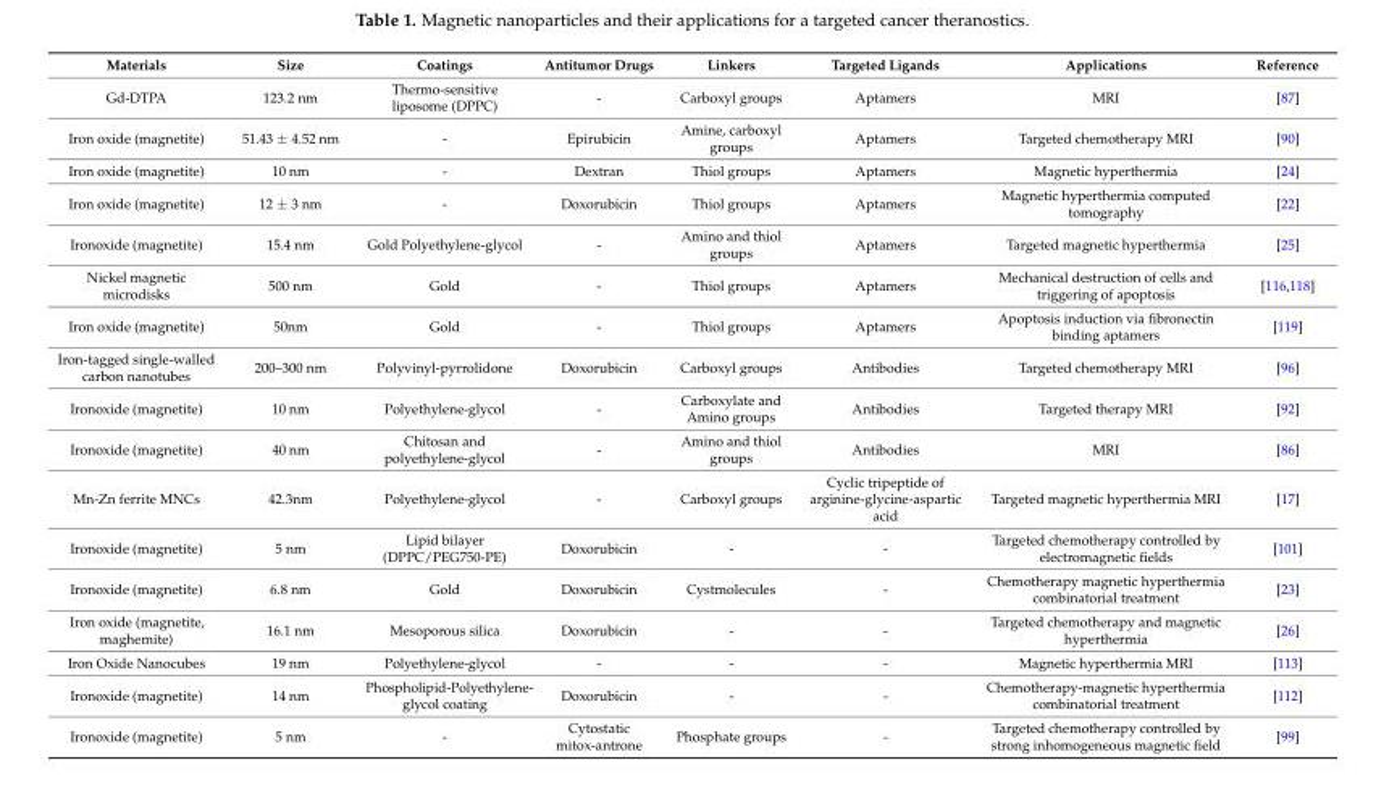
<table><thead><tr><td>Materials</td><td>Size</td><td>Coatings</td><td>Antitumor Drugs</td><td>Linkers</td><td>Targeted Ligands</td><td>Applications</td><td>Reference</td></tr></thead><tbody><tr><td>Gd-DTPA</td><td>123.2 nm</td><td>Thermo-sensitive liposome (DPPC)</td><td>-</td><td>Carboxyl groups</td><td>Aptamers</td><td>MRI</td><td>[87]</td></tr><tr><td>Iron oxide (magnetite)</td><td>51.43 ± 4.52 nm</td><td>-</td><td>Epirubicin</td><td>Amine, carboxyl groups</td><td>Aptamers</td><td>Targeted chemotherapy MRI</td><td>[90]</td></tr><tr><td>Iron oxide (magnetite)</td><td>10 nm</td><td>-</td><td>Dextran</td><td>Thiol groups</td><td>Aptamers</td><td>Magnetic hyperthermia</td><td>[24]</td></tr><tr><td>Iron oxide (magnetite)</td><td>12 ± 3 nm</td><td>-</td><td>Doxorubicin</td><td>Thiol groups</td><td>Aptamers</td><td>Magnetic hyperthermia computed tomography</td><td>[22]</td></tr><tr><td>Ironoxide (magnetite)</td><td>15.4 nm</td><td>Gold Polyethylene-glycol</td><td>-</td><td>Amino and thiol groups</td><td>Aptamers</td><td>Targeted magnetic hyperthermia</td><td>[25]</td></tr><tr><td>Nickel magnetic microdisks</td><td>500 nm</td><td>Gold</td><td>-</td><td>Thiol groups</td><td>Aptamers</td><td>Mechanical destruction of cells and triggering of apoptosis</td><td>[116,118]</td></tr><tr><td>Iron oxide (magnetite)</td><td>50nm</td><td>Gold</td><td>-</td><td>Thiol groups</td><td>Aptamers</td><td>Apoptosis induction via fibronectin binding aptamers</td><td>[119]</td></tr><tr><td>Iron-tagged single-walled carbon nanotubes</td><td>200–300 nm</td><td>Polyvinyl-pyrrolidone</td><td>Doxorubicin</td><td>Carboxyl groups</td><td>Antibodies</td><td>Targeted chemotherapy MRI</td><td>[96]</td></tr><tr><td>Ironoxide (magnetite)</td><td>10 nm</td><td>Polyethylene-glycol</td><td>-</td><td>Carboxylate and Amino groups</td><td>Antibodies</td><td>Targeted therapy MRI</td><td>[92]</td></tr><tr><td>Ironoxide (magnetite)</td><td>40 nm</td><td>Chitosan and polyethylene-glycol</td><td>-</td><td>Amino and thiol groups</td><td>Antibodies</td><td>MRI</td><td>[86]</td></tr><tr><td>Mn-Zn ferrite MNCs</td><td>42.3nm</td><td>Polyethylene-glycol</td><td>-</td><td>Carboxyl groups</td><td>Cyclic tripeptide of arginine-glycine-aspartic acid</td><td>Targeted magnetic hyperthermia MRI</td><td>[17]</td></tr><tr><td>Ironoxide (magnetite)</td><td>5 nm</td><td>Lipid bilayer (DPPC/PEG750-PE)</td><td>Doxorubicin</td><td>-</td><td>-</td><td>Targeted chemotherapy controlled by electromagnetic fields</td><td>[101]</td></tr><tr><td>Ironoxide (magnetite)</td><td>6.8 nm</td><td>Gold</td><td>Doxorubicin</td><td>Cystmolecules</td><td>-</td><td>Chemotherapy magnetic hyperthermia combinatorial treatment</td><td>[23]</td></tr><tr><td>Iron oxide (magnetite, maghemite)</td><td>16.1 nm</td><td>Mesoporous silica</td><td>Doxorubicin</td><td>-</td><td>-</td><td>Targeted chemotherapy and magnetic hyperthermia</td><td>[26]</td></tr><tr><td>Iron Oxide Nanocubes</td><td>19 nm</td><td>Polyethylene-glycol</td><td>-</td><td>-</td><td>-</td><td>Magnetic hyperthermia MRI</td><td>[113]</td></tr><tr><td>Ironoxide (magnetite)</td><td>14 nm</td><td>Phospholipid-Polyethylene- glycol coating</td><td>Doxorubicin</td><td>-</td><td>-</td><td>Chemotherapy-magnetic hyperthermia combinatorial treatment</td><td>[112]</td></tr><tr><td>Ironoxide (magnetite)</td><td>5 nm</td><td>-</td><td>Cytostatic mitox-antrone</td><td>Phosphate groups</td><td>-</td><td>Targeted chemotherapy controlled by strong inhomogeneous magnetic field</td><td>[99]</td></tr></tbody></table>